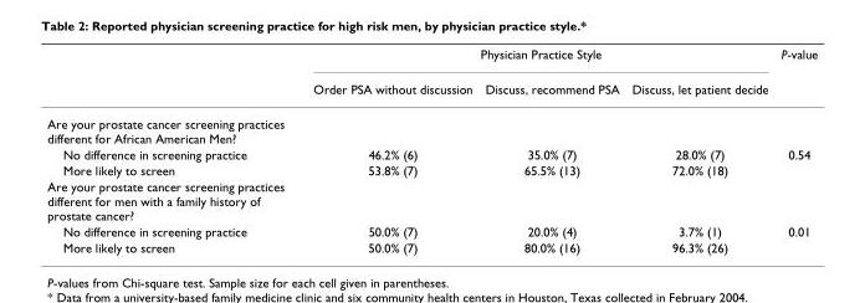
<table><thead><tr><td rowspan="2"></td><td colspan="3">Physician Practice Style</td><td rowspan="2">P-value</td></tr><tr><td>Order PSA without discussion</td><td>Discuss, recommend PSA</td><td>Discuss, let patient decide</td></tr></thead><tbody><tr><td colspan="5">Are your prostate cancer screening practices different for African American Men?</td></tr><tr><td>No difference in screening practice</td><td>46.2% (6)</td><td>35.0% (7)</td><td>28.0% (7)</td><td>0.54</td></tr><tr><td>More likely to screen</td><td>53.8% (7)</td><td>65.5% (13)</td><td>72.0% (18)</td><td></td></tr><tr><td colspan="5">Are your prostate cancer screening practices different for men with a family history of prostate cancer?</td></tr><tr><td>No difference in screening practice</td><td>50.0% (7)</td><td>20.0% (4)</td><td>3.7% (1)</td><td>0.01</td></tr><tr><td>More likely to screen</td><td>50.0% (7)</td><td>80.0% (16)</td><td>96.3% (26)</td><td></td></tr></tbody></table>